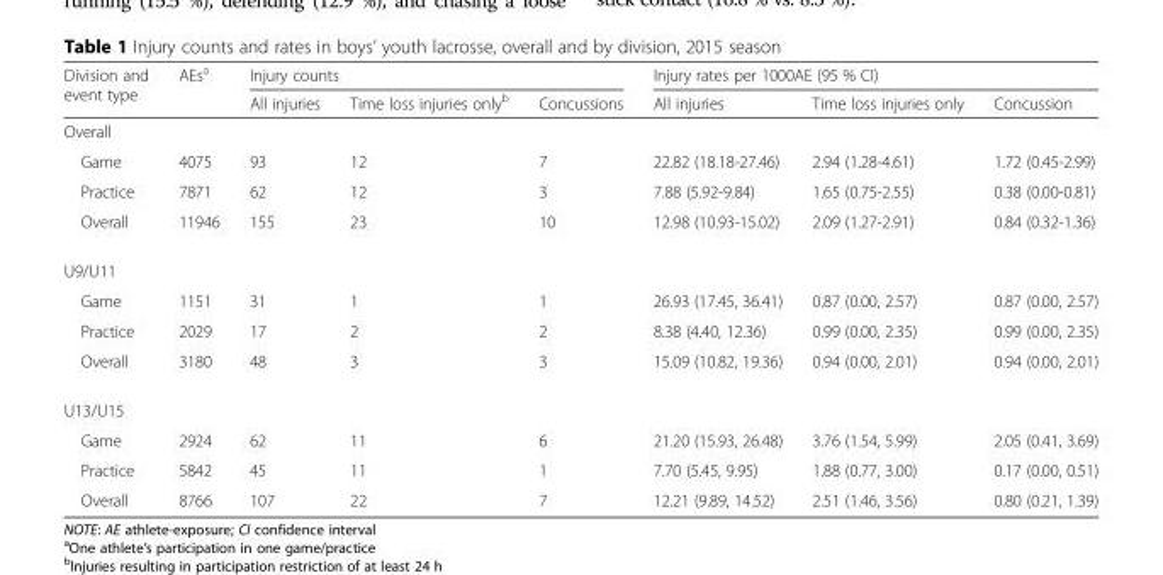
<table><thead><tr><td rowspan="2">Division and event type</td><td rowspan="2">AEs<sup>a</sup></td><td colspan="3">Injury counts</td><td colspan="3">Injury rates per 1000AE (95 % CI)</td></tr><tr><td>All injuries</td><td>Time loss injuries only<sup>b</sup></td><td>Concussions</td><td>All injuries</td><td>Time loss injuries only</td><td>Concussion</td></tr></thead><tbody><tr><td colspan="8">Overall</td></tr><tr><td>Game</td><td>4075</td><td>93</td><td>12</td><td>7</td><td>22.82 (18.18-27.46)</td><td>2.94 (1.28-4.61)</td><td>1.72 (0.45-2.99)</td></tr><tr><td>Practice</td><td>7871</td><td>62</td><td>12</td><td>3</td><td>7.88 (5.92-9.84)</td><td>1.65 (0.75-2.55)</td><td>0.38 (0.00-0.81)</td></tr><tr><td>Overall</td><td>11946</td><td>155</td><td>23</td><td>10</td><td>12.98 (10.93-15.02)</td><td>2.09 (1.27-2.91)</td><td>0.84 (0.32-1.36)</td></tr><tr><td colspan="8">U9/U11</td></tr><tr><td>Game</td><td>1151</td><td>31</td><td>1</td><td>1</td><td>26.93 (17.45, 36.41)</td><td>0.87 (0.00, 2.57)</td><td>0.87 (0.00, 2.57)</td></tr><tr><td>Practice</td><td>2029</td><td>17</td><td>2</td><td>2</td><td>8.38 (4.40, 12.36)</td><td>0.99 (0.00, 2.35)</td><td>0.99 (0.00, 2.35)</td></tr><tr><td>Overall</td><td>3180</td><td>48</td><td>3</td><td>3</td><td>15.09 (10.82, 19.36)</td><td>0.94 (0.00, 2.01)</td><td>0.94 (0.00, 2.01)</td></tr><tr><td colspan="8">U13/U15</td></tr><tr><td>Game</td><td>2924</td><td>62</td><td>11</td><td>6</td><td>21.20 (15.93, 26.48)</td><td>3.76 (1.54, 5.99)</td><td>2.05 (0.41, 3.69)</td></tr><tr><td>Practice</td><td>5842</td><td>45</td><td>11</td><td>1</td><td>7.70 (5.45, 9.95)</td><td>1.88 (0.77, 3.00)</td><td>0.17 (0.00, 0.51)</td></tr><tr><td>Overall</td><td>8766</td><td>107</td><td>22</td><td>7</td><td>12.21 (9.89, 14.52)</td><td>2.51 (1.46, 3.56)</td><td>0.80 (0.21, 1.39)</td></tr></tbody></table>